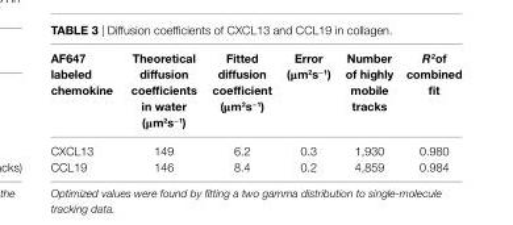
<table><thead><tr><td>aF647 labeled chemokine</td><td>Theoretical diffusion coefficients in water (μm<sup>2</sup>s<sup>−1)</sup></td><td>Fitted diffusion coefficient (μm<sup>2</sup>s<sup>−1)</sup></td><td>error (μm<sup>2</sup>s<sup>−1)</sup></td><td>number of highly mobile tracks</td><td>R<sup>2</sup>of combined fit</td></tr></thead><tbody><tr><td>CXCL13</td><td>149</td><td>6.2</td><td>0.3</td><td>1,930</td><td>0.980</td></tr><tr><td>CCL19</td><td>146</td><td>8.4</td><td>0.2</td><td>4,859</td><td>0.984</td></tr></tbody></table>